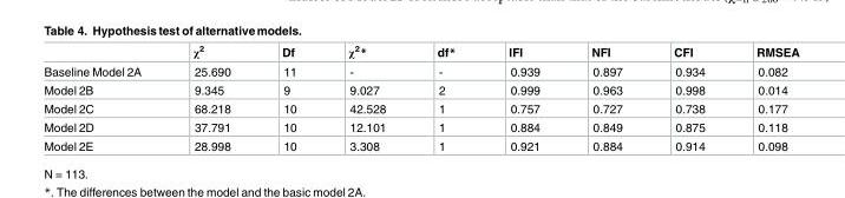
<table><thead><tr><td></td><td>χ<sup>2</sup></td><td>Df</td><td>χ2*</td><td>df*</td><td>IFI</td><td>NFI</td><td>CFI</td><td>RMSEA</td></tr></thead><tbody><tr><td>Baseline Model 2A</td><td>25.690</td><td>11</td><td>-</td><td>-</td><td>0.939</td><td>0.897</td><td>0.934</td><td>0.082</td></tr><tr><td>Model 2B</td><td>9.345</td><td>9</td><td>9.027</td><td>2</td><td>0.999</td><td>0.963</td><td>0.998</td><td>0.014</td></tr><tr><td>Model 2C</td><td>68.218</td><td>10</td><td>42.528</td><td>1</td><td>0.757</td><td>0.727</td><td>0.738</td><td>0.177</td></tr><tr><td>Model 2D</td><td>37.791</td><td>10</td><td>12.101</td><td>1</td><td>0.884</td><td>0.849</td><td>0.875</td><td>0.118</td></tr><tr><td>Model 2E</td><td>28.998</td><td>10</td><td>3.308</td><td>1</td><td>0.921</td><td>0.884</td><td>0.914</td><td>0.098</td></tr></tbody></table>